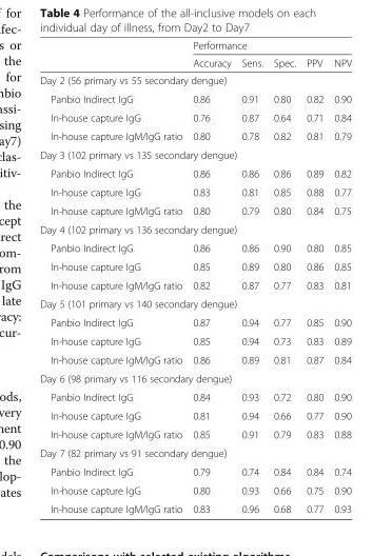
<table><thead><tr><td rowspan="2"></td><td colspan="5">Performance</td></tr><tr><td>Accuracy</td><td>Sens.</td><td>Spec.</td><td>PPV</td><td>NPV</td></tr></thead><tbody><tr><td colspan="6">Day 2 (56 primary vs 55 secondary dengue)</td></tr><tr><td>Panbio Indirect IgG</td><td>0.86</td><td>0.91</td><td>0.80</td><td>0.82</td><td>0.90</td></tr><tr><td>In-house capture IgG</td><td>0.76</td><td>0.87</td><td>0.64</td><td>0.71</td><td>0.84</td></tr><tr><td>In-house capture IgM/IgG ratio</td><td>0.80</td><td>0.78</td><td>0.82</td><td>0.81</td><td>0.79</td></tr><tr><td colspan="6">Day 3 (102 primary vs 135 secondary dengue)</td></tr><tr><td>Panbio Indirect IgG</td><td>0.86</td><td>0.86</td><td>0.86</td><td>0.89</td><td>0.82</td></tr><tr><td>In-house capture IgG</td><td>0.83</td><td>0.81</td><td>0.85</td><td>0.88</td><td>0.77</td></tr><tr><td>In-house capture IgM/IgG ratio</td><td>0.80</td><td>0.79</td><td>0.80</td><td>0.84</td><td>0.75</td></tr><tr><td colspan="6">Day 4 (102 primary vs 136 secondary dengue)</td></tr><tr><td>Panbio Indirect IgG</td><td>0.86</td><td>0.86</td><td>0.90</td><td>0.80</td><td>0.85</td></tr><tr><td>In-house capture IgG</td><td>0.85</td><td>0.89</td><td>0.80</td><td>0.86</td><td>0.85</td></tr><tr><td>In-house capture IgM/IgG ratio</td><td>0.82</td><td>0.87</td><td>0.77</td><td>0.83</td><td>0.81</td></tr><tr><td colspan="6">Day 5 (101 primary vs 140 secondary dengue)</td></tr><tr><td>Panbio Indirect IgG</td><td>0.87</td><td>0.94</td><td>0.77</td><td>0.85</td><td>0.90</td></tr><tr><td>In-house capture IgG</td><td>0.85</td><td>0.94</td><td>0.73</td><td>0.83</td><td>0.89</td></tr><tr><td>In-house capture IgM/IgG ratio</td><td>0.86</td><td>0.89</td><td>0.81</td><td>0.87</td><td>0.84</td></tr><tr><td colspan="6">Day 6 (98 primary vs 116 secondary dengue)</td></tr><tr><td>Panbio Indirect IgG</td><td>0.84</td><td>0.93</td><td>0.72</td><td>0.80</td><td>0.90</td></tr><tr><td>In-house capture IgG</td><td>0.81</td><td>0.94</td><td>0.66</td><td>0.77</td><td>0.90</td></tr><tr><td>In-house capture IgM/IgG ratio</td><td>0.85</td><td>0.91</td><td>0.79</td><td>0.83</td><td>0.88</td></tr><tr><td colspan="6">Day 7 (82 primary vs 91 secondary dengue)</td></tr><tr><td>Panbio Indirect IgG</td><td>0.79</td><td>0.74</td><td>0.84</td><td>0.84</td><td>0.74</td></tr><tr><td>In-house capture IgG</td><td>0.80</td><td>0.93</td><td>0.66</td><td>0.75</td><td>0.90</td></tr><tr><td>In-house capture IgM/IgG ratio</td><td>0.83</td><td>0.96</td><td>0.68</td><td>0.77</td><td>0.93</td></tr></tbody></table>